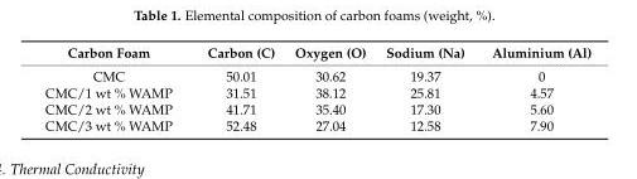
<table><thead><tr><td>Carbon Foam</td><td>Carbon (C)</td><td>Oxygen (O)</td><td>Sodium (Na)</td><td>Aluminium (Al)</td></tr></thead><tbody><tr><td>CMC</td><td>50.01</td><td>30.62</td><td>19.37</td><td>0</td></tr><tr><td>CMC/1 wt % WAMP</td><td>31.51</td><td>38.12</td><td>25.81</td><td>4.57</td></tr><tr><td>CMC/2 wt % WAMP</td><td>41.71</td><td>35.40</td><td>17.30</td><td>5.60</td></tr><tr><td>CMC/3 wt % WAMP</td><td>52.48</td><td>27.04</td><td>12.58</td><td>7.90</td></tr></tbody></table>